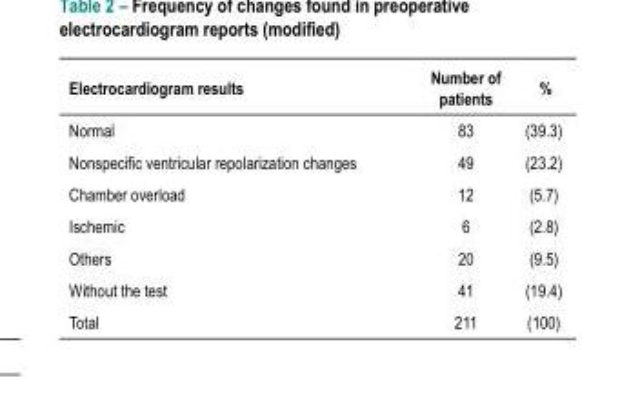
<table><thead><tr><td>Electrocardiogram results</td><td>Number of patients</td><td>%</td></tr></thead><tbody><tr><td>Normal</td><td>83</td><td>(39.3)</td></tr><tr><td>Nonspecific ventricular repolarization changes</td><td>49</td><td>(23.2)</td></tr><tr><td>Chamber overload</td><td>12</td><td>(5.7)</td></tr><tr><td>Ischemic</td><td>6</td><td>(2.8)</td></tr><tr><td>Others</td><td>20</td><td>(9.5)</td></tr><tr><td>Without the test</td><td>41</td><td>(19.4)</td></tr><tr><td>Total</td><td>211</td><td>(100)</td></tr></tbody></table>